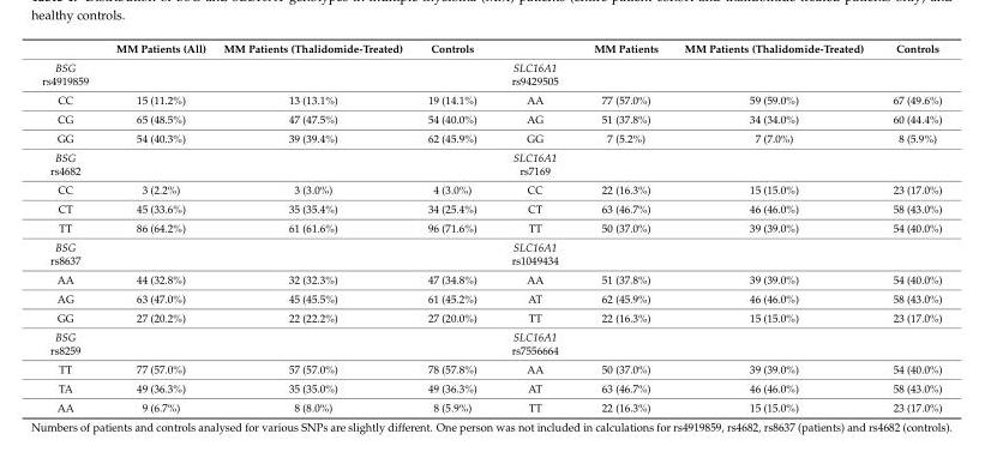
<table><thead><tr><td></td><td>MM Patients (All)</td><td>MM Patients (Thalidomide-Treated)</td><td>Controls</td><td></td><td>MM Patients</td><td>MM Patients (Thalidomide-Treated)</td><td>Controls</td></tr></thead><tbody><tr><td>BSG rs4919859</td><td></td><td></td><td></td><td>SLC16A1 rs9429505</td><td></td><td></td><td></td></tr><tr><td>CC</td><td>15 (11.2%)</td><td>13 (13.1%)</td><td>19 (14.1%)</td><td>AA</td><td>77 (57.0%)</td><td>59 (59.0%)</td><td>67 (49.6%)</td></tr><tr><td>CG</td><td>65 (48.5%)</td><td>47 (47.5%)</td><td>54 (40.0%)</td><td>AG</td><td>51 (37.8%)</td><td>34 (34.0%)</td><td>60 (44.4%)</td></tr><tr><td>GG</td><td>54 (40.3%)</td><td>39 (39.4%)</td><td>62 (45.9%)</td><td>GG</td><td>7 (5.2%)</td><td>7 (7.0%)</td><td>8 (5.9%)</td></tr><tr><td>BSG rs4682</td><td></td><td></td><td></td><td>SLC16A1 rs7169</td><td></td><td></td><td></td></tr><tr><td>CC</td><td>3 (2.2%)</td><td>3 (3.0%)</td><td>4 (3.0%)</td><td>CC</td><td>22 (16.3%)</td><td>15 (15.0%)</td><td>23 (17.0%)</td></tr><tr><td>CT</td><td>45 (33.6%)</td><td>35 (35.4%)</td><td>34 (25.4%)</td><td>CT</td><td>63 (46.7%)</td><td>46 (46.0%)</td><td>58 (43.0%)</td></tr><tr><td>TT</td><td>86 (64.2%)</td><td>61 (61.6%)</td><td>96 (71.6%)</td><td>TT</td><td>50 (37.0%)</td><td>39 (39.0%)</td><td>54 (40.0%)</td></tr><tr><td>BSG rs8637</td><td></td><td></td><td></td><td>SLC16A1 rs1049434</td><td></td><td></td><td></td></tr><tr><td>AA</td><td>44 (32.8%)</td><td>32 (32.3%)</td><td>47 (34.8%)</td><td>AA</td><td>51 (37.8%)</td><td>39 (39.0%)</td><td>54 (40.0%)</td></tr><tr><td>AG</td><td>63 (47.0%)</td><td>45 (45.5%)</td><td>61 (45.2%)</td><td>AT</td><td>62 (45.9%)</td><td>46 (46.0%)</td><td>58 (43.0%)</td></tr><tr><td>GG</td><td>27 (20.2%)</td><td>22 (22.2%)</td><td>27 (20.0%)</td><td>TT</td><td>22 (16.3%)</td><td>15 (15.0%)</td><td>23 (17.0%)</td></tr><tr><td>BSG rs8259</td><td></td><td></td><td></td><td>SLC16A1 rs7556664</td><td></td><td></td><td></td></tr><tr><td>TT</td><td>77 (57.0%)</td><td>57 (57.0%)</td><td>78 (57.8%)</td><td>AA</td><td>50 (37.0%)</td><td>39 (39.0%)</td><td>54 (40.0%)</td></tr><tr><td>TA</td><td>49 (36.3%)</td><td>35 (35.0%)</td><td>49 (36.3%)</td><td>AT</td><td>63 (46.7%)</td><td>46 (46.0%)</td><td>58 (43.0%)</td></tr><tr><td>AA</td><td>9 (6.7%)</td><td>8 (8.0%)</td><td>8 (5.9%)</td><td>TT</td><td>22 (16.3%)</td><td>15 (15.0%)</td><td>23 (17.0%)</td></tr></tbody></table>